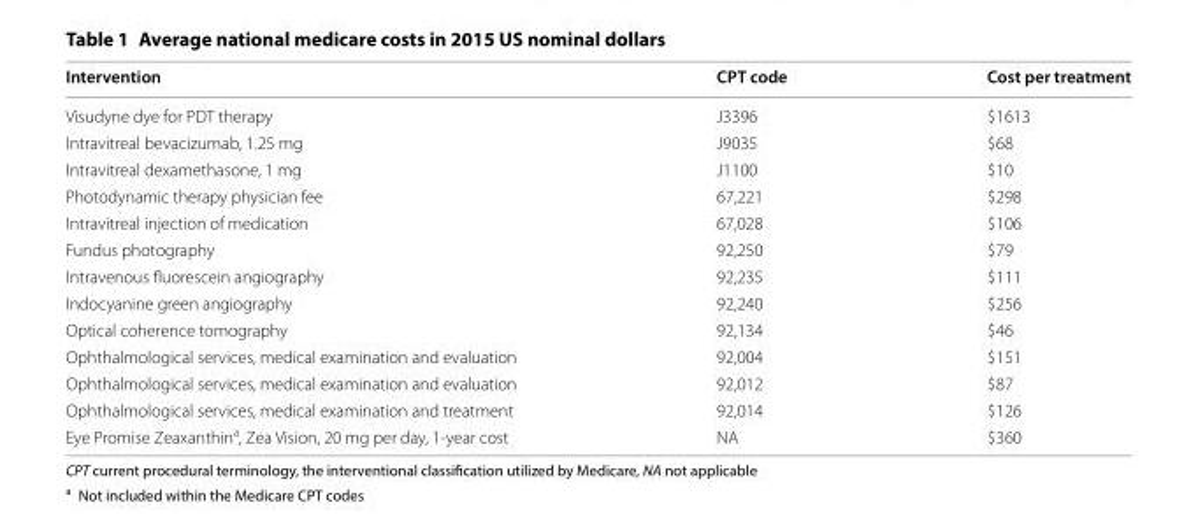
<table><thead><tr><td>Intervention</td><td>CPT code</td><td>Cost per treatment</td></tr></thead><tbody><tr><td>Visudyne dye for PDT therapy</td><td>J3396</td><td>$1613</td></tr><tr><td>Intravitreal bevacizumab, 1.25 mg</td><td>J9035</td><td>$68</td></tr><tr><td>Intravitreal dexamethasone, 1 mg</td><td>J1100</td><td>$10</td></tr><tr><td>Photodynamic therapy physician fee</td><td>67,221</td><td>$298</td></tr><tr><td>Intravitreal injection of medication</td><td>67,028</td><td>$106</td></tr><tr><td>Fundus photography</td><td>92,250</td><td>$79</td></tr><tr><td>Intravenous fluorescein angiography</td><td>92,235</td><td>$111</td></tr><tr><td>Indocyanine green angiography</td><td>92,240</td><td>$256</td></tr><tr><td>Optical coherence tomography</td><td>92,134</td><td>$46</td></tr><tr><td>Ophthalmological services, medical examination and evaluation</td><td>92,004</td><td>$151</td></tr><tr><td>Ophthalmological services, medical examination and evaluation</td><td>92,012</td><td>$87</td></tr><tr><td>Ophthalmological services, medical examination and treatment</td><td>92,014</td><td>$126</td></tr><tr><td>Eye Promise Zeaxanthin<sup>a</sup>, Zea Vision, 20 mg per day, 1-year cost</td><td>NA</td><td>$360</td></tr></tbody></table>